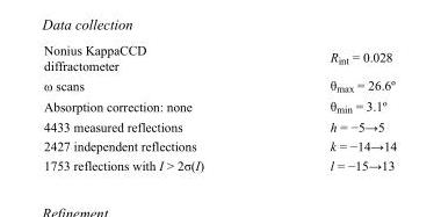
<table><tbody><tr><td>Nonius KappaCCD diffractometer</td><td>R<sub>int</sub> = 0.028</td></tr><tr><td>ω scans</td><td>θ<sub>max</sub> = 26.6º</td></tr><tr><td>Absorption correction: none</td><td>θ<sub>min</sub> = 3.1º</td></tr><tr><td>4433 measured reflections</td><td>h = −5→5</td></tr><tr><td>2427 independent reflections</td><td>k = −14→14</td></tr><tr><td>1753 reflections with I &gt; 2σ(I)</td><td>l = −15→13</td></tr></tbody></table>